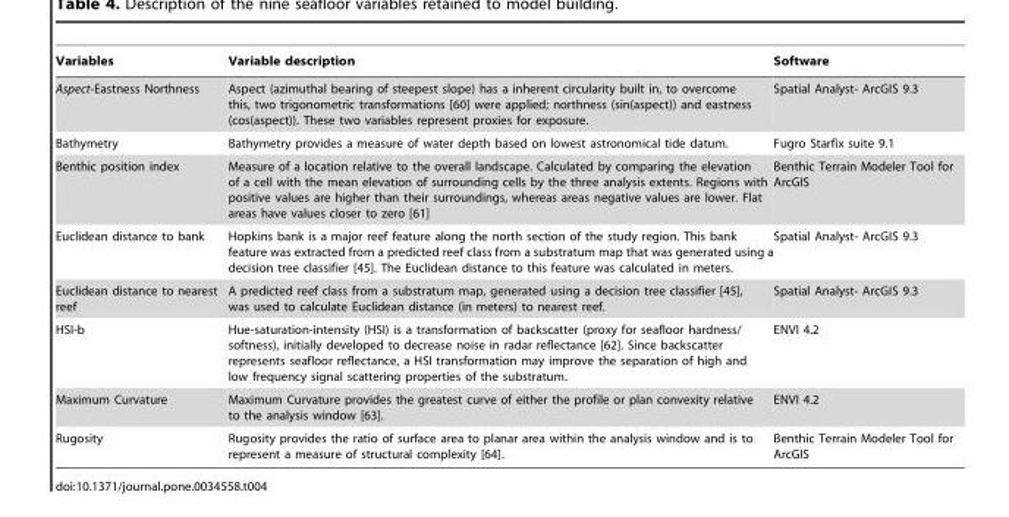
<table><thead><tr><td>Variables</td><td>Variable description</td><td>Software</td></tr></thead><tbody><tr><td>Aspect-Eastness Northness</td><td>Aspect (azimuthal bearing of steepest slope) has a inherent circularity built in, to overcome this, two trigonometric transformations [60] were applied; northness (sin(aspect)) and eastness (cos(aspect)). These two variables represent proxies for exposure.</td><td>Spatial Analyst- ArcGIS 9.3</td></tr><tr><td>Bathymetry</td><td>Bathymetry provides a measure of water depth based on lowest astronomical tide datum.</td><td>Fugro Starfix suite 9.1</td></tr><tr><td>Benthic position index</td><td>Measure of a location relative to the overall landscape. Calculated by comparing the elevation of a cell with the mean elevation of surrounding cells by the three analysis extents. Regions with positive values are higher than their surroundings, whereas areas negative values are lower. Flat areas have values closer to zero [61]</td><td>Benthic Terrain Modeler Tool for ArcGIS</td></tr><tr><td>Euclidean distance to bank</td><td>Hopkins bank is a major reef feature along the north section of the study region. This bank feature was extracted from a predicted reef class from a substratum map that was generated using a decision tree classifier [45]. The Euclidean distance to this feature was calculated in meters.</td><td>Spatial Analyst- ArcGIS 9.3</td></tr><tr><td>Euclidean distance to nearest reef</td><td>A predicted reef class from a substratum map, generated using a decision tree classifier [45], was used to calculate Euclidean distance (in meters) to nearest reef.</td><td>Spatial Analyst- ArcGIS 9.3</td></tr><tr><td>HSI-b</td><td>Hue-saturation-intensity (HSI) is a transformation of backscatter (proxy for seafloor hardness/ softness), initially developed to decrease noise in radar reflectance [62]. Since backscatter represents seafloor reflectance, a HSI transformation may improve the separation of high and low frequency signal scattering properties of the substratum.</td><td>ENVI 4.2</td></tr><tr><td>Maximum Curvature</td><td>Maximum Curvature provides the greatest curve of either the profile or plan convexity relative to the analysis window [63].</td><td>ENVI 4.2</td></tr><tr><td>Rugosity</td><td>Rugosity provides the ratio of surface area to planar area within the analysis window and is to represent a measure of structural complexity [64].</td><td>Benthic Terrain Modeler Tool for ArcGIS</td></tr></tbody></table>